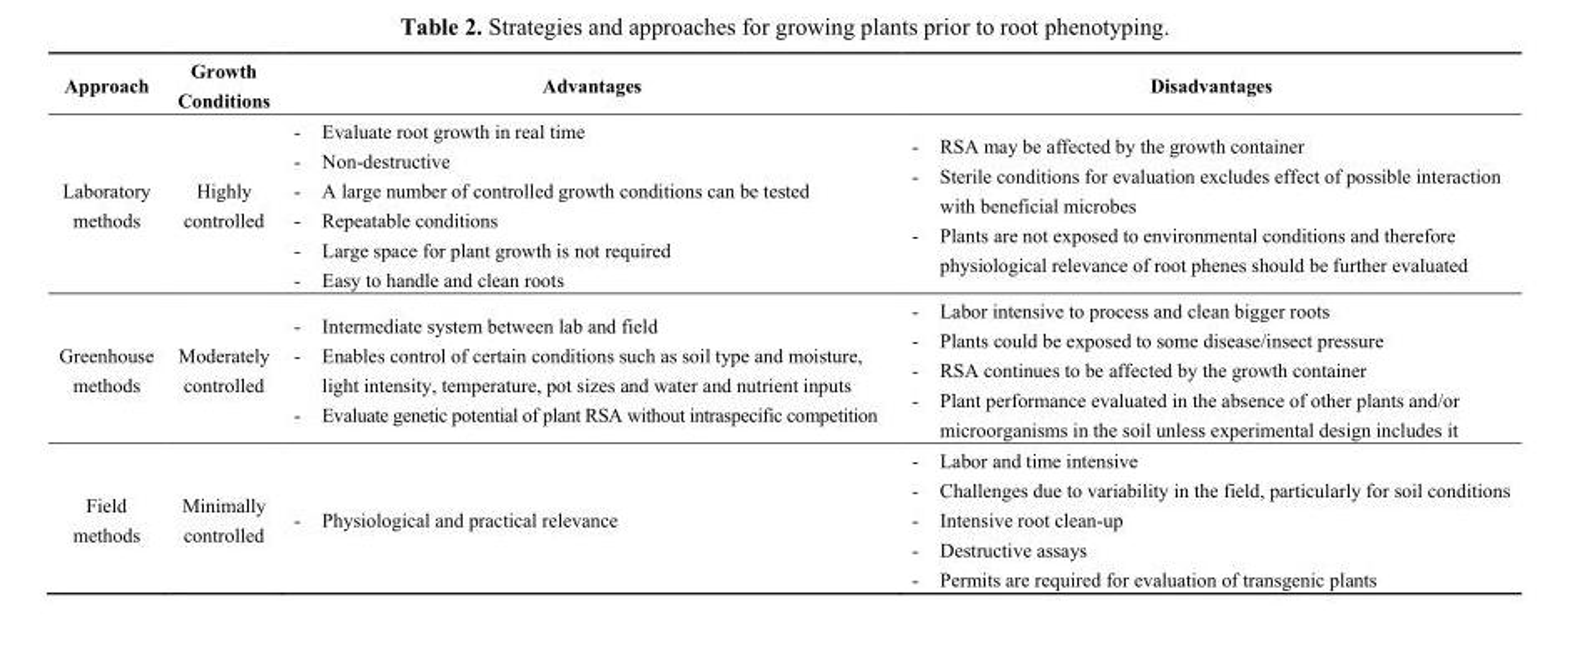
<table><thead><tr><td>Approach</td><td>Growth Conditions</td><td>Advantages</td><td>Disadvantages</td></tr></thead><tbody><tr><td>Laboratory methods</td><td>Highly controlled</td><td>- Evaluate root growth in real time - Non-destructive - A large number of controlled growth conditions can be tested - Repeatable conditions - Large space for plant growth is not required - Easy to handle and clean roots</td><td>- RSA may be affected by the growth container - Sterile conditions for evaluation excludes effect of possible interaction with beneficial microbes - Plants are not exposed to environmental conditions and therefore physiological relevance of root phenes should be further evaluated</td></tr><tr><td>Greenhouse methods</td><td>Moderately controlled</td><td>- Intermediate system between lab and field - Enables control of certain conditions such as soil type and moisture, light intensity, temperature, pot sizes and water and nutrient inputs - Evaluate genetic potential of plant RSA without intraspecific competition</td><td>- Labor intensive to process and clean bigger roots - Plants could be exposed to some disease/insect pressure - RSA continues to be affected by the growth container - Plant performance evaluated in the absence of other plants and/or microorganisms in the soil unless experimental design includes it</td></tr><tr><td>Field methods</td><td>Minimally controlled</td><td>- Physiological and practical relevance</td><td>- Labor and time intensive - Challenges due to variability in the field, particularly for soil conditions - Intensive root clean-up - Destructive assays - Permits are required for evaluation of transgenic plants</td></tr></tbody></table>